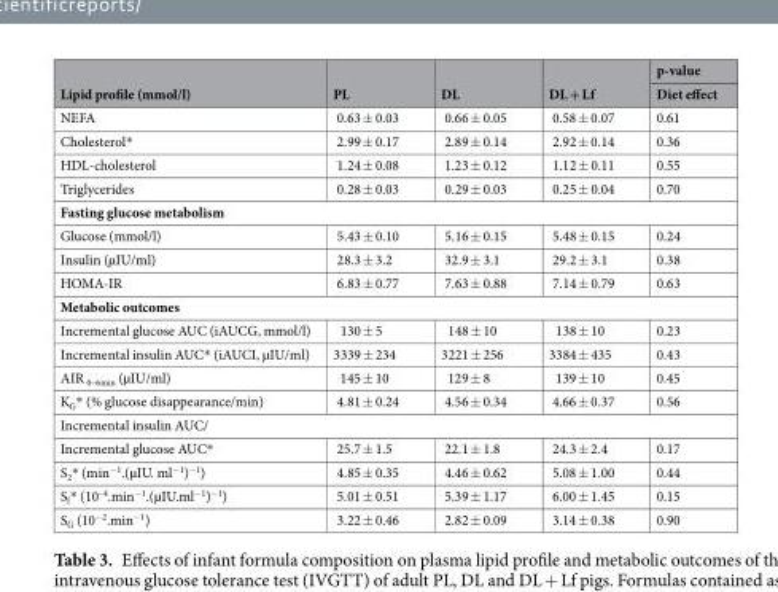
<table><thead><tr><td rowspan="2">Lipid profile (mmol/l)</td><td rowspan="2">PL</td><td rowspan="2">DL</td><td rowspan="2">DL + Lf</td><td rowspan="2">p-value Diet effect</td></tr><tr></tr></thead><tbody><tr><td>NEFA</td><td>0.63 ± 0.03</td><td>0.66 ± 0.05</td><td>0.58 ± 0.07</td><td>0.61</td></tr><tr><td>Cholesterol*</td><td>2.99 ± 0.17</td><td>2.89 ± 0.14</td><td>2.92 ± 0.14</td><td>0.36</td></tr><tr><td>HDL-cholesterol</td><td>1.24 ± 0.08</td><td>1.23 ± 0.12</td><td>1.12 ± 0.11</td><td>0.55</td></tr><tr><td>Triglycerides</td><td>0.28 ± 0.03</td><td>0.29 ± 0.03</td><td>0.25 ± 0.04</td><td>0.70</td></tr><tr><td colspan="5">Fasting glucose metabolism</td></tr><tr><td>Glucose (mmol/l)</td><td>5.43 ± 0.10</td><td>5.16 ± 0.15</td><td>5.48 ± 0.15</td><td>0.24</td></tr><tr><td>Insulin (µIU/ml)</td><td>28.3 ± 3.2</td><td>32.9 ± 3.1</td><td>29.2 ± 3.1</td><td>0.38</td></tr><tr><td>HOMA-IR</td><td>6.83 ± 0.77</td><td>7.63 ± 0.88</td><td>7.14 ± 0.79</td><td>0.63</td></tr><tr><td colspan="5">Metabolic outcomes</td></tr><tr><td>Incremental glucose AUC (iAUCG, mmol/l)</td><td>130 ± 5</td><td>148 ± 10</td><td>138 ± 10</td><td>0.23</td></tr><tr><td>Incremental insulin AUC* (iAUCI, µIU/ml)</td><td>3339 ± 234</td><td>3221 ± 256</td><td>3384 ± 435</td><td>0.43</td></tr><tr><td>AIR <sub>0–6min</sub> (µIU/ml)</td><td>145 ± 10</td><td>129 ± 8</td><td>139 ± 10</td><td>0.45</td></tr><tr><td>K<sub>G</sub>* (% glucose disappearance/min)</td><td>4.81 ± 0.24</td><td>4.56 ± 0.34</td><td>4.66 ± 0.37</td><td>0.56</td></tr><tr><td colspan="5">Incremental insulin AUC/</td></tr><tr><td>Incremental glucose AUC*</td><td>25.7 ± 1.5</td><td>22.1 ± 1.8</td><td>24.3 ± 2.4</td><td>0.17</td></tr><tr><td>S<sub>2</sub>* (min<sup>−1</sup>.(µIU. ml<sup>−1</sup>)<sup>−1</sup>)</td><td>4.85 ± 0.35</td><td>4.46 ± 0.62</td><td>5.08 ± 1.00</td><td>0.44</td></tr><tr><td>S<sub>I</sub>* (10<sup>–4</sup>.min<sup>−1</sup>.(µIU.ml<sup>−1</sup>)<sup>−1</sup>)</td><td>5.01 ± 0.51</td><td>5.39 ± 1.17</td><td>6.00 ± 1.45</td><td>0.15</td></tr><tr><td>S<sub>G</sub> (10<sup>−2</sup>.min<sup>−1</sup>)</td><td>3.22 ± 0.46</td><td>2.82 ± 0.09</td><td>3.14 ± 0.38</td><td>0.90</td></tr></tbody></table>